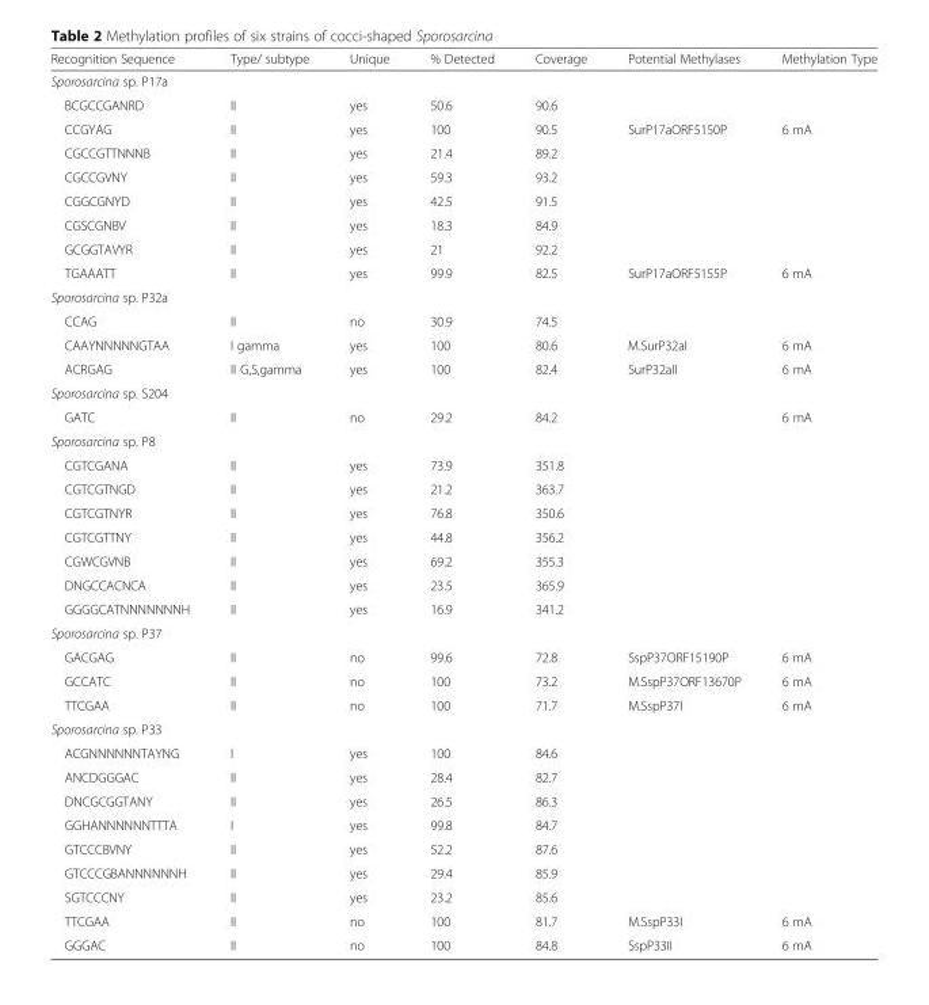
<table><thead><tr><td>Recognition Sequence</td><td>Type/ subtype</td><td>Unique</td><td>% Detected</td><td>Coverage</td><td>Potential Methylases</td><td>Methylation Type</td></tr></thead><tbody><tr><td colspan="7">Sporosarcina sp. P17a</td></tr><tr><td>BCGCCGANRD</td><td>II</td><td>yes</td><td>50.6</td><td>90.6</td><td></td><td></td></tr><tr><td>CCGYAG</td><td>II</td><td>yes</td><td>100</td><td>90.5</td><td>SurP17aORF5150P</td><td>6 mA</td></tr><tr><td>CGCCGTTNNNB</td><td>II</td><td>yes</td><td>21.4</td><td>89.2</td><td></td><td></td></tr><tr><td>CGCCGVNY</td><td>II</td><td>yes</td><td>59.3</td><td>93.2</td><td></td><td></td></tr><tr><td>CGGCGNYD</td><td>II</td><td>yes</td><td>42.5</td><td>91.5</td><td></td><td></td></tr><tr><td>CGSCGNBV</td><td>II</td><td>yes</td><td>18.3</td><td>84.9</td><td></td><td></td></tr><tr><td>GCGGTAVYR</td><td>II</td><td>yes</td><td>21</td><td>92.2</td><td></td><td></td></tr><tr><td>TGAAATT</td><td>II</td><td>yes</td><td>99.9</td><td>82.5</td><td>SurP17aORF5155P</td><td>6 mA</td></tr><tr><td colspan="7">Sporosarcina sp. P32a</td></tr><tr><td>CCAG</td><td>II</td><td>no</td><td>30.9</td><td>74.5</td><td></td><td></td></tr><tr><td>CAAYNNNNNGTAA</td><td>I gamma</td><td>yes</td><td>100</td><td>80.6</td><td>M.SurP32aI</td><td>6 mA</td></tr><tr><td>ACRGAG</td><td>II G,S,gamma</td><td>yes</td><td>100</td><td>82.4</td><td>SurP32aII</td><td>6 mA</td></tr><tr><td colspan="7">Sporosarcina sp. S204</td></tr><tr><td>GATC</td><td>II</td><td>no</td><td>29.2</td><td>84.2</td><td></td><td>6 mA</td></tr><tr><td colspan="7">Sporosarcina sp. P8</td></tr><tr><td>CGTCGANA</td><td>II</td><td>yes</td><td>73.9</td><td>351.8</td><td></td><td></td></tr><tr><td>CGTCGTNGD</td><td>II</td><td>yes</td><td>21.2</td><td>363.7</td><td></td><td></td></tr><tr><td>CGTCGTNYR</td><td>II</td><td>yes</td><td>76.8</td><td>350.6</td><td></td><td></td></tr><tr><td>CGTCGTTNY</td><td>II</td><td>yes</td><td>44.8</td><td>356.2</td><td></td><td></td></tr><tr><td>CGWCGVNB</td><td>II</td><td>yes</td><td>69.2</td><td>355.3</td><td></td><td></td></tr><tr><td>DNGCCACNCA</td><td>II</td><td>yes</td><td>23.5</td><td>365.9</td><td></td><td></td></tr><tr><td>GGGGCATNNNNNNNH</td><td>II</td><td>yes</td><td>16.9</td><td>341.2</td><td></td><td></td></tr><tr><td colspan="7">Sporosarcina sp. P37</td></tr><tr><td>GACGAG</td><td>II</td><td>no</td><td>99.6</td><td>72.8</td><td>SspP37ORF15190P</td><td>6 mA</td></tr><tr><td>GCCATC</td><td>II</td><td>no</td><td>100</td><td>73.2</td><td>M.SspP37ORF13670P</td><td>6 mA</td></tr><tr><td>TTCGAA</td><td>II</td><td>no</td><td>100</td><td>71.7</td><td>M.SspP37I</td><td>6 mA</td></tr><tr><td colspan="7">Sporosarcina sp. P33</td></tr><tr><td>ACGNNNNNNTAYNG</td><td>I</td><td>yes</td><td>100</td><td>84.6</td><td></td><td></td></tr><tr><td>ANCDGGGAC</td><td>II</td><td>yes</td><td>28.4</td><td>82.7</td><td></td><td></td></tr><tr><td>DNCGCGGTANY</td><td>II</td><td>yes</td><td>26.5</td><td>86.3</td><td></td><td></td></tr><tr><td>GGHANNNNNNTTTA</td><td>I</td><td>yes</td><td>99.8</td><td>84.7</td><td></td><td></td></tr><tr><td>GTCCCBVNY</td><td>II</td><td>yes</td><td>52.2</td><td>87.6</td><td></td><td></td></tr><tr><td>GTCCCGBANNNNNNH</td><td>II</td><td>yes</td><td>29.4</td><td>85.9</td><td></td><td></td></tr><tr><td>SGTCCCNY</td><td>II</td><td>yes</td><td>23.2</td><td>85.6</td><td></td><td></td></tr><tr><td>TTCGAA</td><td>II</td><td>no</td><td>100</td><td>81.7</td><td>M.SspP33I</td><td>6 mA</td></tr><tr><td>GGGAC</td><td>II</td><td>no</td><td>100</td><td>84.8</td><td>SspP33II</td><td>6 mA</td></tr></tbody></table>